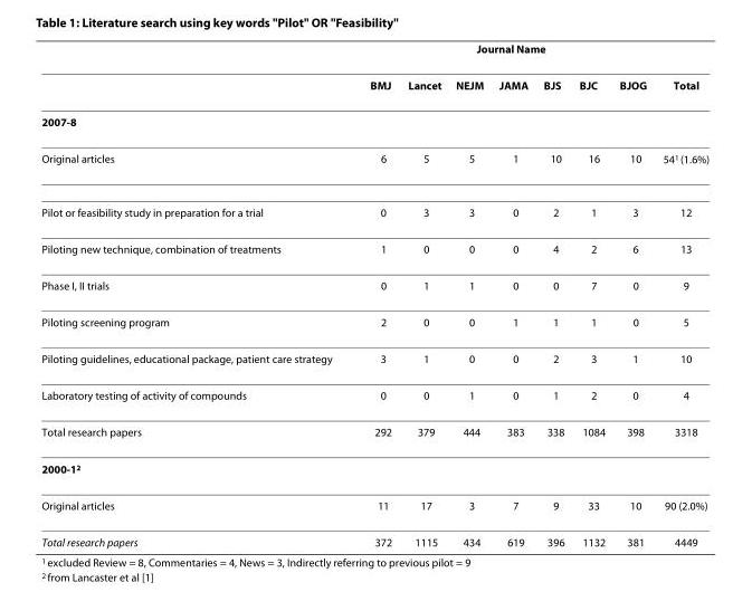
<table><thead><tr><td rowspan="2"></td><td colspan="7">Journal Name</td><td rowspan="2">Total</td></tr><tr><td>BMJ</td><td>Lancet</td><td>NEJM</td><td>JAMA</td><td>BJS</td><td>BJC</td><td>BJOG</td></tr></thead><tbody><tr><td colspan="9">2007-8</td></tr><tr><td>Original articles</td><td>6</td><td>5</td><td>5</td><td>1</td><td>10</td><td>16</td><td>10</td><td>541 (1.6%)</td></tr><tr><td>Pilot or feasibility study in preparation for a trial</td><td>0</td><td>3</td><td>3</td><td>0</td><td>2</td><td>1</td><td>3</td><td>12</td></tr><tr><td>Piloting new technique, combination of treatments</td><td>1</td><td>0</td><td>0</td><td>0</td><td>4</td><td>2</td><td>6</td><td>13</td></tr><tr><td>Phase I, II trials</td><td>0</td><td>1</td><td>1</td><td>0</td><td>0</td><td>7</td><td>0</td><td>9</td></tr><tr><td>Piloting screening program</td><td>2</td><td>0</td><td>0</td><td>1</td><td>1</td><td>1</td><td>0</td><td>5</td></tr><tr><td>Piloting guidelines, educational package, patient care strategy</td><td>3</td><td>1</td><td>0</td><td>0</td><td>2</td><td>3</td><td>1</td><td>10</td></tr><tr><td>Laboratory testing of activity of compounds</td><td>0</td><td>0</td><td>1</td><td>0</td><td>1</td><td>2</td><td>0</td><td>4</td></tr><tr><td>Total research papers</td><td>292</td><td>379</td><td>444</td><td>383</td><td>338</td><td>1084</td><td>398</td><td>3318</td></tr><tr><td colspan="9">2000-12</td></tr><tr><td>Original articles</td><td>11</td><td>17</td><td>3</td><td>7</td><td>9</td><td>33</td><td>10</td><td>90 (2.0%)</td></tr><tr><td>Total research papers</td><td>372</td><td>1115</td><td>434</td><td>619</td><td>396</td><td>1132</td><td>381</td><td>4449</td></tr></tbody></table>